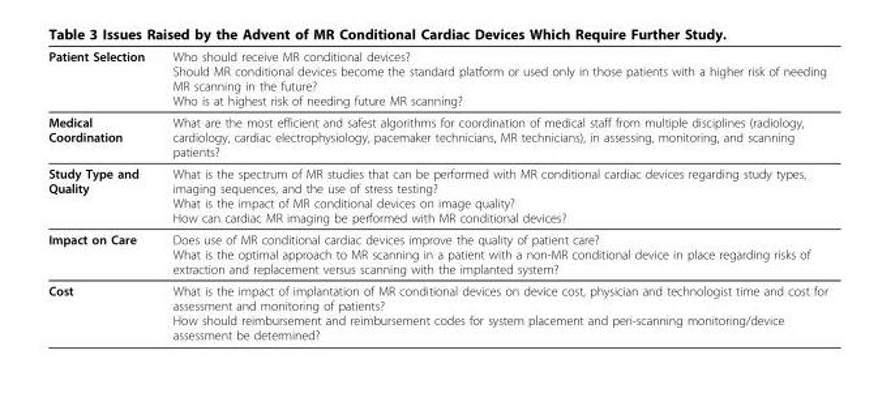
<table><thead><tr><td>Patient Selection</td><td>Who should receive MR conditional devices? Should MR conditional devices become the standard platform or used only in those patients with a higher risk of needing MR scanning in the future? Who is at highest risk of needing future MR scanning?</td></tr></thead><tbody><tr><td>Medical Coordination</td><td>What are the most efficient and safest algorithms for coordination of medical staff from multiple disciplines (radiology, cardiology, cardiac electrophysiology, pacemaker technicians, MR technicians), in assessing, monitoring, and scanning patients?</td></tr><tr><td>Study Type and Quality</td><td>What is the spectrum of MR studies that can be performed with MR conditional cardiac devices regarding study types, imaging sequences, and the use of stress testing? What is the impact of MR conditional devices on image quality? How can cardiac MR imaging be performed with MR conditional devices?</td></tr><tr><td>Impact on Care</td><td>Does use of MR conditional cardiac devices improve the quality of patient care? What is the optimal approach to MR scanning in a patient with a non-MR conditional device in place regarding risks of extraction and replacement versus scanning with the implanted system?</td></tr><tr><td>Cost</td><td>What is the impact of implantation of MR conditional devices on device cost, physician and technologist time and cost for assessment and monitoring of patients? How should reimbursement and reimbursement codes for system placement and peri-scanning monitoring/device assessment be determined?</td></tr></tbody></table>